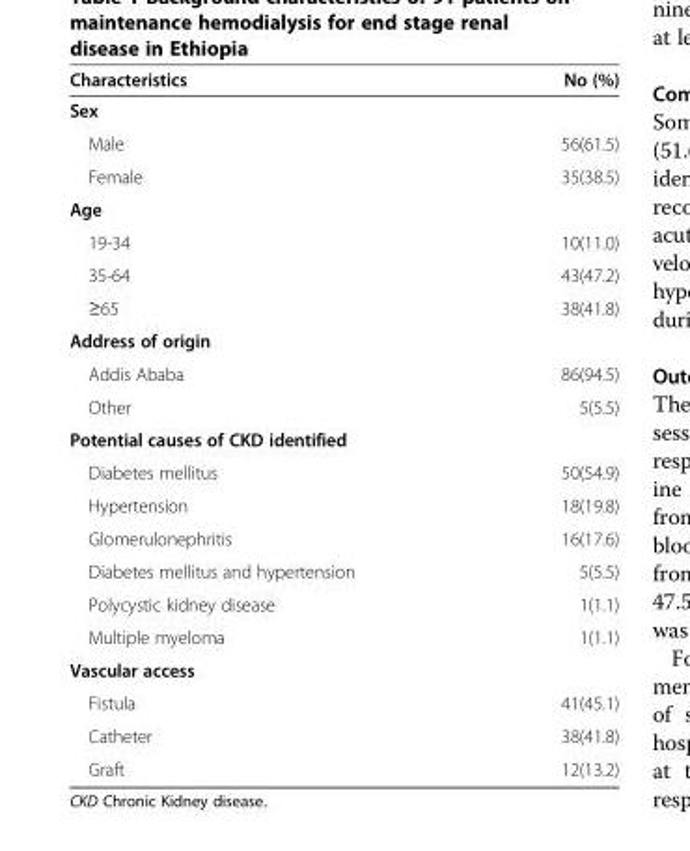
<table><thead><tr><td>Characteristics</td><td>No (%)</td></tr></thead><tbody><tr><td colspan="2">Sex</td></tr><tr><td>Male</td><td>56(61.5)</td></tr><tr><td>Female</td><td>35(38.5)</td></tr><tr><td colspan="2">Age</td></tr><tr><td>19-34</td><td>10(11.0)</td></tr><tr><td>35-64</td><td>43(47.2)</td></tr><tr><td>≥65</td><td>38(41.8)</td></tr><tr><td colspan="2">Address of origin</td></tr><tr><td>Addis Ababa</td><td>86(94.5)</td></tr><tr><td>Other</td><td>5(5.5)</td></tr><tr><td colspan="2">Potential causes of CKD identified</td></tr><tr><td>Diabetes mellitus</td><td>50(54.9)</td></tr><tr><td>Hypertension</td><td>18(19.8)</td></tr><tr><td>Glomerulonephritis</td><td>16(17.6)</td></tr><tr><td>Diabetes mellitus and hypertension</td><td>5(5.5)</td></tr><tr><td>Polycystic kidney disease</td><td>1(1.1)</td></tr><tr><td>Multiple myeloma</td><td>1(1.1)</td></tr><tr><td colspan="2">Vascular access</td></tr><tr><td>Fistula</td><td>41(45.1)</td></tr><tr><td>Catheter</td><td>38(41.8)</td></tr><tr><td>Graft</td><td>12(13.2)</td></tr></tbody></table>